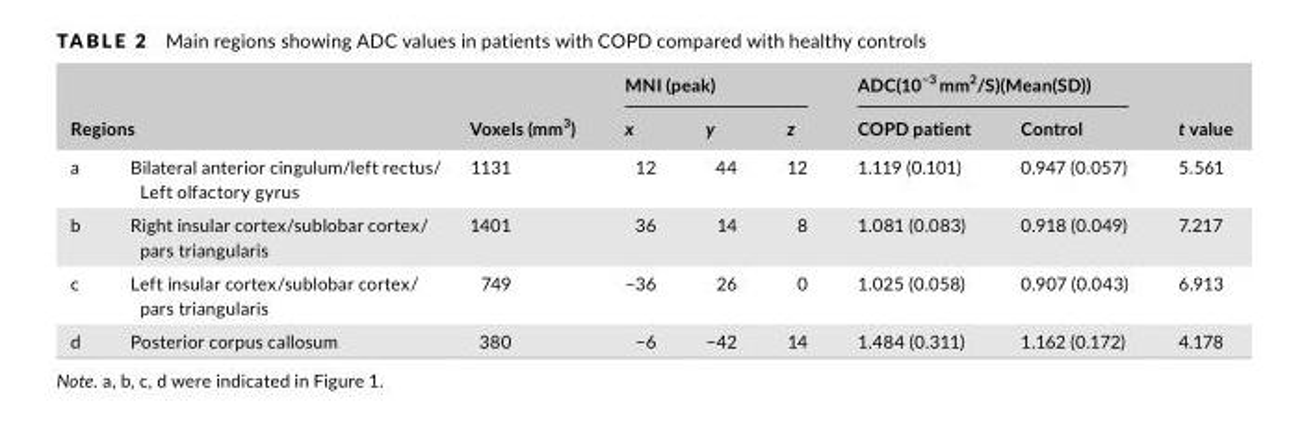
<table><thead><tr><td rowspan="2" colspan="2">Regions</td><td rowspan="3">Voxels (mm<sup>3</sup>) 1131</td><td colspan="3">MNI (peak)</td><td colspan="2">ADC(10<sup>−3</sup> mm<sup>2</sup>/S)(Mean(SD))</td><td rowspan="3">t value 5.561</td></tr><tr><td rowspan="2">x 12</td><td rowspan="2">y 44</td><td rowspan="2">z 12</td><td rowspan="2">COPD patient 1.119 (0.101)</td><td rowspan="2">Control 0.947 (0.057)</td></tr><tr><td>a</td><td>Bilateral anterior cingulum/left rectus/ Left olfactory gyrus</td></tr></thead><tbody><tr><td>b</td><td>Right insular cortex/sublobar cortex/ pars triangularis</td><td>1401</td><td>36</td><td>14</td><td>8</td><td>1.081 (0.083)</td><td>0.918 (0.049)</td><td>7.217</td></tr><tr><td>c</td><td>Left insular cortex/sublobar cortex/ pars triangularis</td><td>749</td><td>−36</td><td>26</td><td>0</td><td>1.025 (0.058)</td><td>0.907 (0.043)</td><td>6.913</td></tr><tr><td>d</td><td>Posterior corpus callosum</td><td>380</td><td>−6</td><td>−42</td><td>14</td><td>1.484 (0.311)</td><td>1.162 (0.172)</td><td>4.178</td></tr></tbody></table>